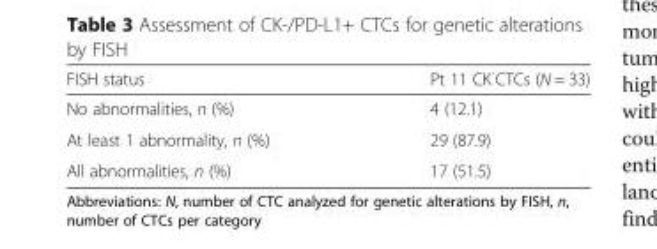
<table><thead><tr><td>FISH status</td><td>Pt 11 CK<sup>-</sup>CTCs (N = 33)</td></tr></thead><tbody><tr><td>No abnormalities, n (%)</td><td>4 (12.1)</td></tr><tr><td>At least 1 abnormality, n (%)</td><td>29 (87.9)</td></tr><tr><td>All abnormalities, n (%)</td><td>17 (51.5)</td></tr></tbody></table>